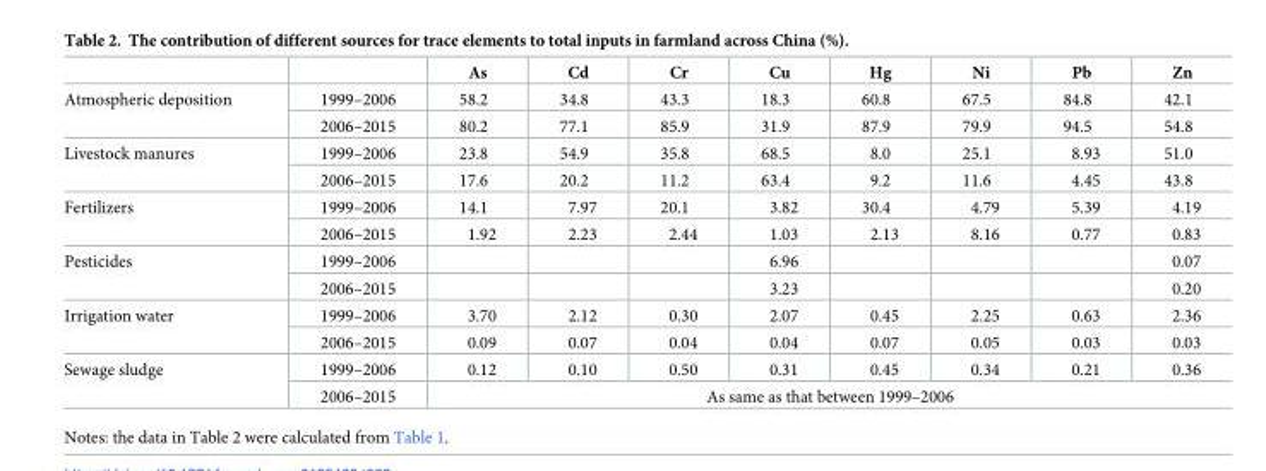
<table><thead><tr><td></td><td></td><td>As</td><td>Cd</td><td>Cr</td><td>Cu</td><td>Hg</td><td>Ni</td><td>Pb</td><td>Zn</td></tr></thead><tbody><tr><td rowspan="2">Atmospheric deposition</td><td>1999–2006</td><td>58.2</td><td>34.8</td><td>43.3</td><td>18.3</td><td>60.8</td><td>67.5</td><td>84.8</td><td>42.1</td></tr><tr><td>2006–2015</td><td>80.2</td><td>77.1</td><td>85.9</td><td>31.9</td><td>87.9</td><td>79.9</td><td>94.5</td><td>54.8</td></tr><tr><td rowspan="2">Livestock manures</td><td>1999–2006</td><td>23.8</td><td>54.9</td><td>35.8</td><td>68.5</td><td>8.0</td><td>25.1</td><td>8.93</td><td>51.0</td></tr><tr><td>2006–2015</td><td>17.6</td><td>20.2</td><td>11.2</td><td>63.4</td><td>9.2</td><td>11.6</td><td>4.45</td><td>43.8</td></tr><tr><td rowspan="2">Fertilizers</td><td>1999–2006</td><td>14.1</td><td>7.97</td><td>20.1</td><td>3.82</td><td>30.4</td><td>4.79</td><td>5.39</td><td>4.19</td></tr><tr><td>2006–2015</td><td>1.92</td><td>2.23</td><td>2.44</td><td>1.03</td><td>2.13</td><td>8.16</td><td>0.77</td><td>0.83</td></tr><tr><td rowspan="2">Pesticides</td><td>1999–2006</td><td></td><td></td><td></td><td>6.96</td><td></td><td></td><td></td><td>0.07</td></tr><tr><td>2006–2015</td><td></td><td></td><td></td><td>3.23</td><td></td><td></td><td></td><td>0.20</td></tr><tr><td rowspan="2">Irrigation water</td><td>1999–2006</td><td>3.70</td><td>2.12</td><td>0.30</td><td>2.07</td><td>0.45</td><td>2.25</td><td>0.63</td><td>2.36</td></tr><tr><td>2006–2015</td><td>0.09</td><td>0.07</td><td>0.04</td><td>0.04</td><td>0.07</td><td>0.05</td><td>0.03</td><td>0.03</td></tr><tr><td rowspan="2">Sewage sludge</td><td>1999–2006</td><td>0.12</td><td>0.10</td><td>0.50</td><td>0.31</td><td>0.45</td><td>0.34</td><td>0.21</td><td>0.36</td></tr><tr><td>2006–2015</td><td colspan="8">As same as that between 1999–2006</td></tr></tbody></table>